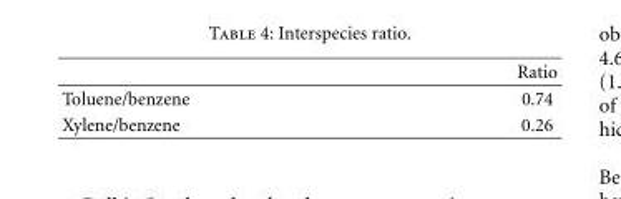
<table><thead><tr><td></td><td>Ratio</td></tr></thead><tbody><tr><td>Toluene/benzene</td><td>0.74</td></tr><tr><td>Xylene/benzene</td><td>0.26</td></tr></tbody></table>